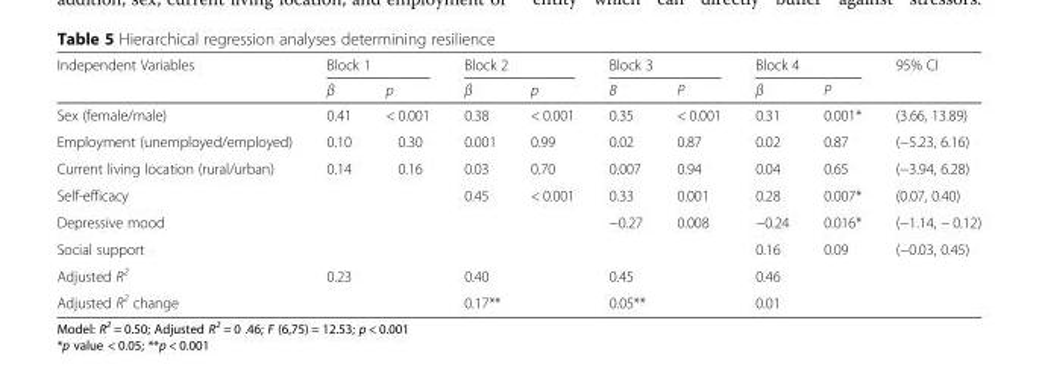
<table><thead><tr><td rowspan="2">Independent Variables</td><td colspan="2">Block 1</td><td colspan="2">Block 2</td><td colspan="2">Block 3</td><td colspan="2">Block 4</td><td rowspan="2">95% CI</td></tr><tr><td>β</td><td>p</td><td>β</td><td>p</td><td>Β</td><td>P</td><td>β</td><td>P</td></tr></thead><tbody><tr><td>Sex (female/male)</td><td>0.41</td><td>&lt; 0.001</td><td>0.38</td><td>&lt; 0.001</td><td>0.35</td><td>&lt; 0.001</td><td>0.31</td><td>0.001*</td><td>(3.66, 13.89)</td></tr><tr><td>Employment (unemployed/employed)</td><td>0.10</td><td>0.30</td><td>0.001</td><td>0.99</td><td>0.02</td><td>0.87</td><td>0.02</td><td>0.87</td><td>(−5.23, 6.16)</td></tr><tr><td>Current living location (rural/urban)</td><td>0.14</td><td>0.16</td><td>0.03</td><td>0.70</td><td>0.007</td><td>0.94</td><td>0.04</td><td>0.65</td><td>(−3.94, 6.28)</td></tr><tr><td>Self-efficacy</td><td></td><td></td><td>0.45</td><td>&lt; 0.001</td><td>0.33</td><td>0.001</td><td>0.28</td><td>0.007*</td><td>(0.07, 0.40)</td></tr><tr><td>Depressive mood</td><td></td><td></td><td></td><td></td><td>−0.27</td><td>0.008</td><td>−0.24</td><td>0.016*</td><td>(−1.14, − 0.12)</td></tr><tr><td>Social support</td><td></td><td></td><td></td><td></td><td></td><td></td><td>0.16</td><td>0.09</td><td>(−0.03, 0.45)</td></tr><tr><td>Adjusted R<sup>2</sup></td><td colspan="2">0.23</td><td colspan="2">0.40</td><td colspan="2">0.45</td><td colspan="3">0.46</td></tr><tr><td>Adjusted R<sup>2</sup> change</td><td colspan="2"></td><td colspan="2">0.17**</td><td colspan="2">0.05**</td><td colspan="3">0.01</td></tr></tbody></table>